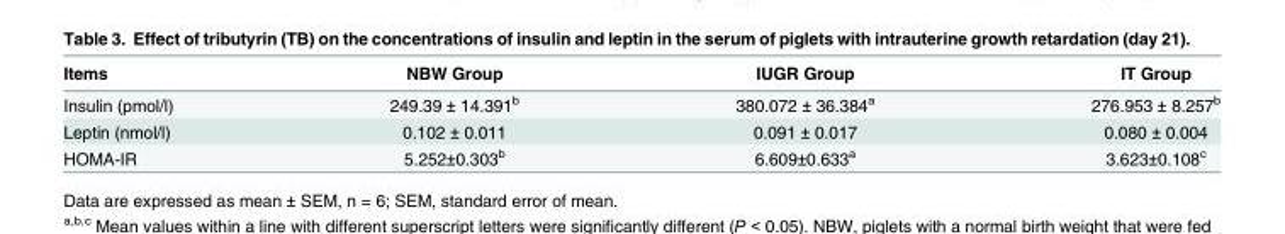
<table><thead><tr><td>Items</td><td>NBW Group</td><td>IUGR Group</td><td>IT Group</td></tr></thead><tbody><tr><td>Insulin (pmol/l)</td><td>249.39 ± 14.391<sup>b</sup></td><td>380.072 ± 36.384<sup>a</sup></td><td>276.953 ± 8.257<sup>b</sup></td></tr><tr><td>Leptin (nmol/l)</td><td>0.102 ± 0.011</td><td>0.091 ± 0.017</td><td>0.080 ± 0.004</td></tr><tr><td>HOMA-IR</td><td>5.252±0.303<sup>b</sup></td><td>6.609±0.633<sup>a</sup></td><td>3.623±0.108<sup>c</sup></td></tr></tbody></table>